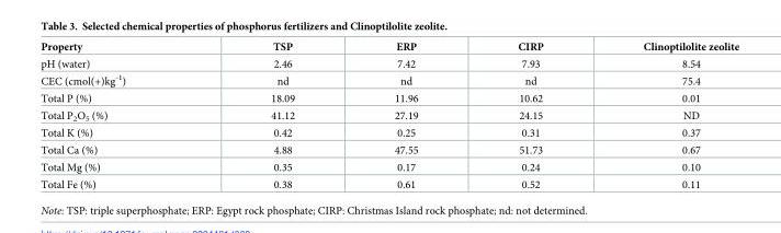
<table><thead><tr><td>Property</td><td>TSP</td><td>ERP</td><td>CIRP</td><td>Clinoptilolite zeolite</td></tr></thead><tbody><tr><td>pH (water)</td><td>2.46</td><td>7.42</td><td>7.93</td><td>8.54</td></tr><tr><td>CEC (cmol(+)kg<sup>-1</sup>)</td><td>nd</td><td>nd</td><td>nd</td><td>75.4</td></tr><tr><td>Total P (%)</td><td>18.09</td><td>11.96</td><td>10.62</td><td>0.01</td></tr><tr><td>Total P<sub>2</sub>O<sub>5</sub> (%)</td><td>41.12</td><td>27.19</td><td>24.15</td><td>ND</td></tr><tr><td>Total K (%)</td><td>0.42</td><td>0.25</td><td>0.31</td><td>0.37</td></tr><tr><td>Total Ca (%)</td><td>4.88</td><td>47.55</td><td>51.73</td><td>0.67</td></tr><tr><td>Total Mg (%)</td><td>0.35</td><td>0.17</td><td>0.24</td><td>0.10</td></tr><tr><td>Total Fe (%)</td><td>0.38</td><td>0.61</td><td>0.52</td><td>0.11</td></tr></tbody></table>